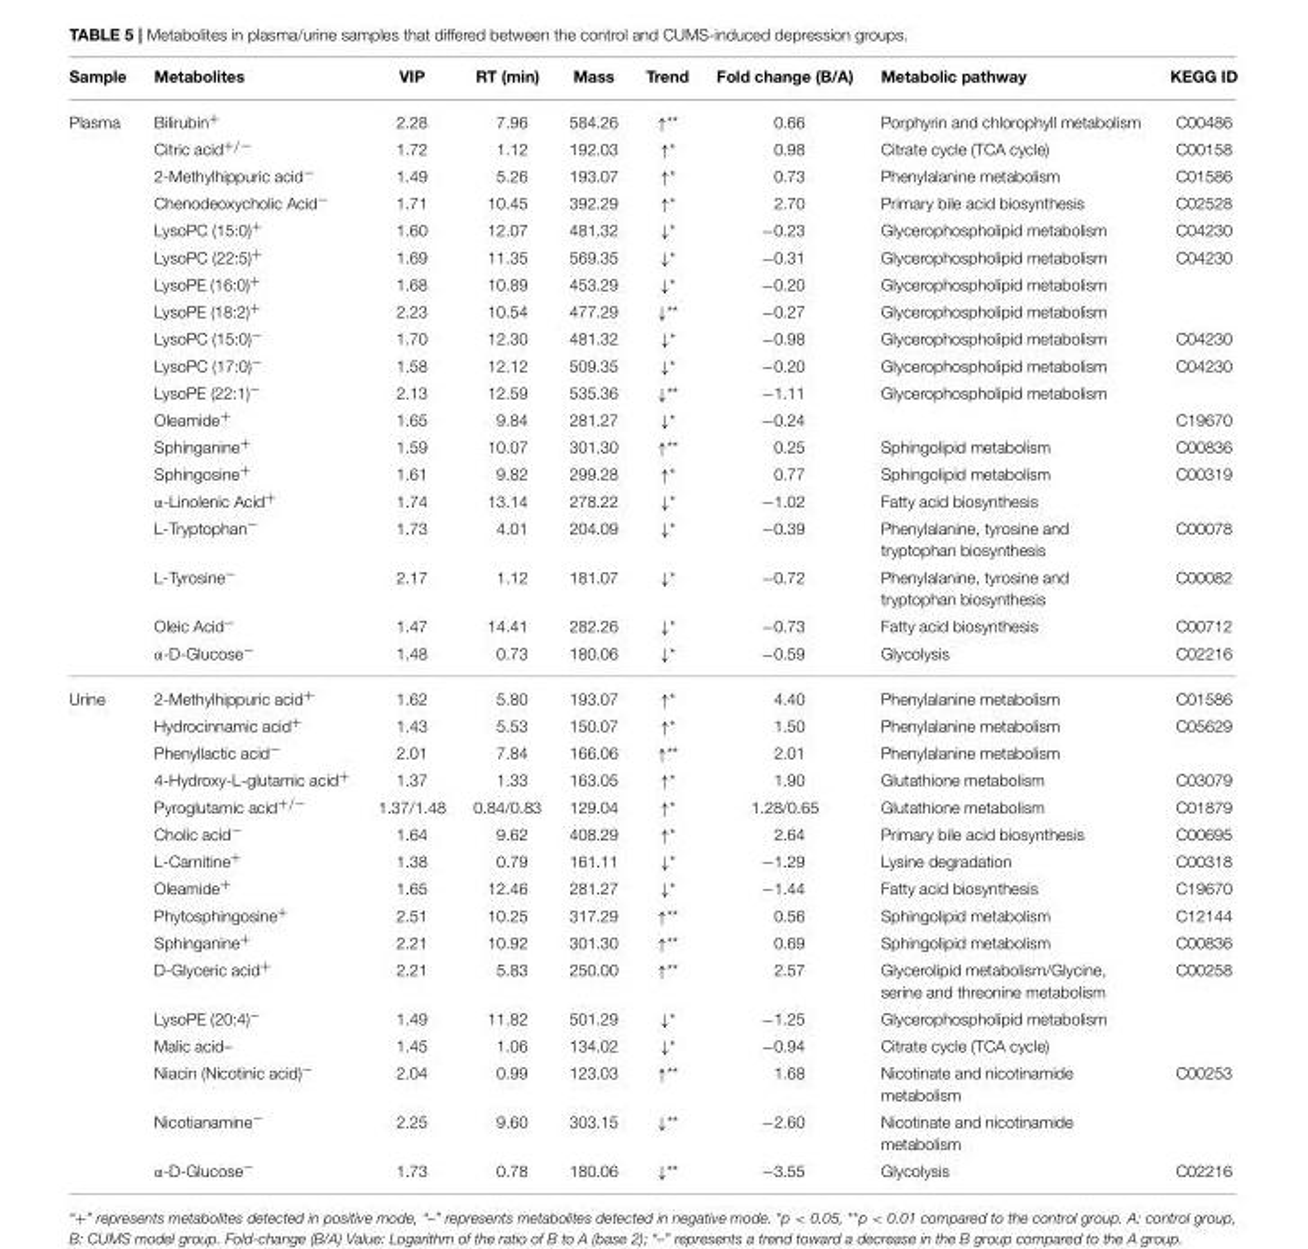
<table><thead><tr><td>Sample</td><td>Metabolites</td><td>VIP</td><td>RT (min)</td><td>Mass</td><td>Trend</td><td>Fold change (B/A)</td><td>Metabolic pathway</td><td>KEGG ID</td></tr></thead><tbody><tr><td rowspan="19">Plasma</td><td>Bilirubin<sup>+</sup></td><td>2.28</td><td>7.96</td><td>584.26</td><td>↑**</td><td>0.66</td><td>Porphyrin and chlorophyll metabolism</td><td>C00486</td></tr><tr><td>Citric acid<sup>+/−</sup></td><td>1.72</td><td>1.12</td><td>192.03</td><td>↑*</td><td>0.98</td><td>Citrate cycle (TCA cycle)</td><td>C00158</td></tr><tr><td>2-Methylhippuric acid<sup>−</sup></td><td>1.49</td><td>5.26</td><td>193.07</td><td>↑*</td><td>0.73</td><td>Phenylalanine metabolism</td><td>C01586</td></tr><tr><td>Chenodeoxycholic Acid<sup>−</sup></td><td>1.71</td><td>10.45</td><td>392.29</td><td>↑*</td><td>2.70</td><td>Primary bile acid biosynthesis</td><td>C02528</td></tr><tr><td>LysoPC (15:0)<sup>+</sup></td><td>1.60</td><td>12.07</td><td>481.32</td><td>↓*</td><td>−0.23</td><td>Glycerophospholipid metabolism</td><td>C04230</td></tr><tr><td>LysoPC (22:5)<sup>+</sup></td><td>1.69</td><td>11.35</td><td>569.35</td><td>↓*</td><td>−0.31</td><td>Glycerophospholipid metabolism</td><td>C04230</td></tr><tr><td>LysoPE (16:0)<sup>+</sup></td><td>1.68</td><td>10.89</td><td>453.29</td><td>↓*</td><td>−0.20</td><td>Glycerophospholipid metabolism</td><td></td></tr><tr><td>LysoPE (18:2)<sup>+</sup></td><td>2.23</td><td>10.54</td><td>477.29</td><td>↓**</td><td>−0.27</td><td>Glycerophospholipid metabolism</td><td></td></tr><tr><td>LysoPC (15:0)<sup>−</sup></td><td>1.70</td><td>12.30</td><td>481.32</td><td>↓*</td><td>−0.98</td><td>Glycerophospholipid metabolism</td><td>C04230</td></tr><tr><td>LysoPC (17:0)<sup>−</sup></td><td>1.58</td><td>12.12</td><td>509.35</td><td>↓*</td><td>−0.20</td><td>Glycerophospholipid metabolism</td><td>C04230</td></tr><tr><td>LysoPE (22:1)<sup>−</sup></td><td>2.13</td><td>12.59</td><td>535.36</td><td>↓**</td><td>−1.11</td><td>Glycerophospholipid metabolism</td><td></td></tr><tr><td>Oleamide<sup>+</sup></td><td>1.65</td><td>9.84</td><td>281.27</td><td>↓*</td><td>−0.24</td><td></td><td>C19670</td></tr><tr><td>Sphinganine<sup>+</sup></td><td>1.59</td><td>10.07</td><td>301.30</td><td>↑**</td><td>0.25</td><td>Sphingolipid metabolism</td><td>C00836</td></tr><tr><td>Sphingosine<sup>+</sup></td><td>1.61</td><td>9.82</td><td>299.28</td><td>↑*</td><td>0.77</td><td>Sphingolipid metabolism</td><td>C00319</td></tr><tr><td>α-Linolenic Acid<sup>+</sup></td><td>1.74</td><td>13.14</td><td>278.22</td><td>↓*</td><td>−1.02</td><td>Fatty acid biosynthesis</td><td></td></tr><tr><td>L-Tryptophan<sup>−</sup></td><td>1.73</td><td>4.01</td><td>204.09</td><td>↓*</td><td>−0.39</td><td>Phenylalanine, tyrosine and tryptophan biosynthesis</td><td>C00078</td></tr><tr><td>L-Tyrosine<sup>−</sup></td><td>2.17</td><td>1.12</td><td>181.07</td><td>↓*</td><td>−0.72</td><td>Phenylalanine, tyrosine and tryptophan biosynthesis</td><td>C00082</td></tr><tr><td>Oleic Acid<sup>−</sup></td><td>1.47</td><td>14.41</td><td>282.26</td><td>↓*</td><td>−0.73</td><td>Fatty acid biosynthesis</td><td>C00712</td></tr><tr><td>α-D-Glucose<sup>−</sup></td><td>1.48</td><td>0.73</td><td>180.06</td><td>↓*</td><td>−0.59</td><td>Glycolysis</td><td>C02216</td></tr><tr><td rowspan="16">Urine</td><td>2-Methylhippuric acid<sup>+</sup></td><td>1.62</td><td>5.80</td><td>193.07</td><td>↑*</td><td>4.40</td><td>Phenylalanine metabolism</td><td>C01586</td></tr><tr><td>Hydrocinnamic acid<sup>+</sup></td><td>1.43</td><td>5.53</td><td>150.07</td><td>↑*</td><td>1.50</td><td>Phenylalanine metabolism</td><td>C05629</td></tr><tr><td>Phenyllactic acid<sup>−</sup></td><td>2.01</td><td>7.84</td><td>166.06</td><td>↑**</td><td>2.01</td><td>Phenylalanine metabolism</td><td></td></tr><tr><td>4-Hydroxy-L-glutamic acid<sup>+</sup></td><td>1.37</td><td>1.33</td><td>163.05</td><td>↑*</td><td>1.90</td><td>Glutathione metabolism</td><td>C03079</td></tr><tr><td>Pyroglutamic acid<sup>+/−</sup></td><td>1.37/1.48</td><td>0.84/0.83</td><td>129.04</td><td>↑*</td><td>1.28/0.65</td><td>Glutathione metabolism</td><td>C01879</td></tr><tr><td>Cholic acid<sup>−</sup></td><td>1.64</td><td>9.62</td><td>408.29</td><td>↑*</td><td>2.64</td><td>Primary bile acid biosynthesis</td><td>C00695</td></tr><tr><td>L-Carnitine<sup>+</sup></td><td>1.38</td><td>0.79</td><td>161.11</td><td>↓*</td><td>−1.29</td><td>Lysine degradation</td><td>C00318</td></tr><tr><td>Oleamide<sup>+</sup></td><td>1.65</td><td>12.46</td><td>281.27</td><td>↓*</td><td>−1.44</td><td>Fatty acid biosynthesis</td><td>C19670</td></tr><tr><td>Phytosphingosine<sup>+</sup></td><td>2.51</td><td>10.25</td><td>317.29</td><td>↑**</td><td>0.56</td><td>Sphingolipid metabolism</td><td>C12144</td></tr><tr><td>Sphinganine<sup>+</sup></td><td>2.21</td><td>10.92</td><td>301.30</td><td>↑**</td><td>0.69</td><td>Sphingolipid metabolism</td><td>C00836</td></tr><tr><td>D-Glyceric acid<sup>+</sup></td><td>2.21</td><td>5.83</td><td>250.00</td><td>↑**</td><td>2.57</td><td>Glycerolipid metabolism/Glycine, serine and threonine metabolism</td><td>C00258</td></tr><tr><td>LysoPE (20:4)<sup>−</sup></td><td>1.49</td><td>11.82</td><td>501.29</td><td>↓*</td><td>−1.25</td><td>Glycerophospholipid metabolism</td><td></td></tr><tr><td>Malic acid–</td><td>1.45</td><td>1.06</td><td>134.02</td><td>↓*</td><td>−0.94</td><td>Citrate cycle (TCA cycle)</td><td></td></tr><tr><td>Niacin (Nicotinic acid)<sup>−</sup></td><td>2.04</td><td>0.99</td><td>123.03</td><td>↑**</td><td>1.68</td><td>Nicotinate and nicotinamide metabolism</td><td>C00253</td></tr><tr><td>Nicotianamine<sup>−</sup></td><td>2.25</td><td>9.60</td><td>303.15</td><td>↓**</td><td>−2.60</td><td>Nicotinate and nicotinamide metabolism</td><td></td></tr><tr><td>α-D-Glucose<sup>−</sup></td><td>1.73</td><td>0.78</td><td>180.06</td><td>↓**</td><td>−3.55</td><td>Glycolysis</td><td>C02216</td></tr></tbody></table>